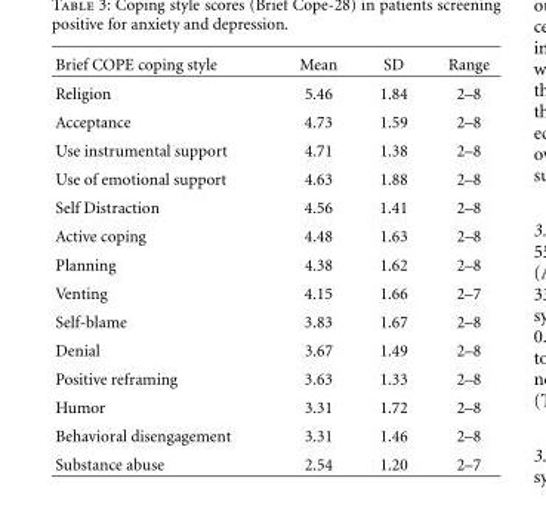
<table><thead><tr><td>Brief COPE coping style</td><td>Mean</td><td>SD</td><td>Range</td></tr></thead><tbody><tr><td>Religion</td><td>5.46</td><td>1.84</td><td>2–8</td></tr><tr><td>Acceptance</td><td>4.73</td><td>1.59</td><td>2–8</td></tr><tr><td>Use instrumental support</td><td>4.71</td><td>1.38</td><td>2–8</td></tr><tr><td>Use of emotional support</td><td>4.63</td><td>1.88</td><td>2–8</td></tr><tr><td>Self Distraction</td><td>4.56</td><td>1.41</td><td>2–8</td></tr><tr><td>Active coping</td><td>4.48</td><td>1.63</td><td>2–8</td></tr><tr><td>Planning</td><td>4.38</td><td>1.62</td><td>2–8</td></tr><tr><td>Venting</td><td>4.15</td><td>1.66</td><td>2–7</td></tr><tr><td>Self-blame</td><td>3.83</td><td>1.67</td><td>2–8</td></tr><tr><td>Denial</td><td>3.67</td><td>1.49</td><td>2–8</td></tr><tr><td>Positive reframing</td><td>3.63</td><td>1.33</td><td>2–8</td></tr><tr><td>Humor</td><td>3.31</td><td>1.72</td><td>2–8</td></tr><tr><td>Behavioral disengagement</td><td>3.31</td><td>1.46</td><td>2–8</td></tr><tr><td>Substance abuse</td><td>2.54</td><td>1.20</td><td>2–7</td></tr></tbody></table>